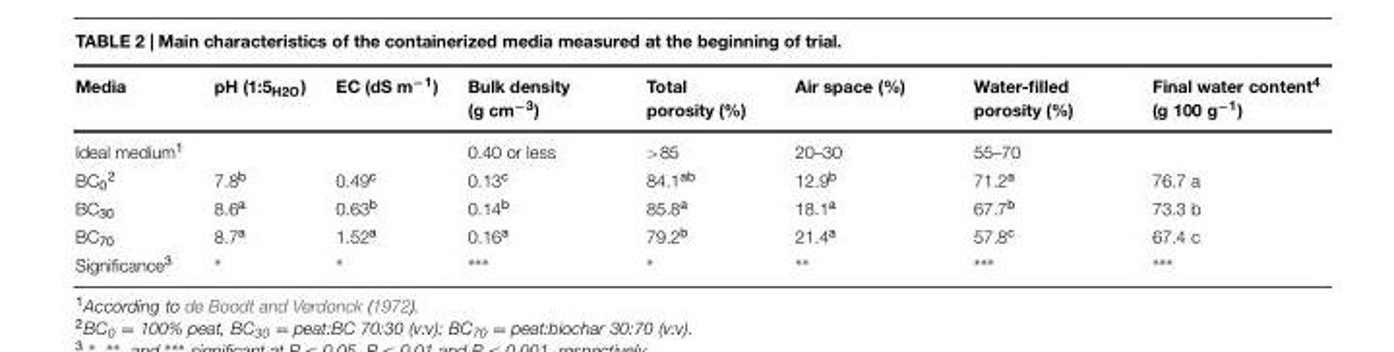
<table><thead><tr><td>Media</td><td>pH (1:5<sub>H2O</sub>)</td><td>EC (dS m<sup>−1</sup>)</td><td>Bulk density (g cm<sup>−3</sup>)</td><td>Total porosity (%)</td><td>Air space (%)</td><td>Water-filled porosity (%)</td><td>Final water content<sup>4</sup> (g 100 g<sup>−1</sup>)</td></tr></thead><tbody><tr><td>Ideal medium<sup>1</sup></td><td></td><td></td><td>0.40 or less</td><td>&gt;85</td><td>20–30</td><td>55–70</td><td></td></tr><tr><td>BC<sub>0</sub><sup>2</sup></td><td>7.8<sup>b</sup></td><td>0.49<sup>c</sup></td><td>0.13<sup>c</sup></td><td>84.1<sup>ab</sup></td><td>12.9<sup>b</sup></td><td>71.2<sup>a</sup></td><td>76.7 a</td></tr><tr><td>BC<sub>30</sub></td><td>8.6<sup>a</sup></td><td>0.63<sup>b</sup></td><td>0.14<sup>b</sup></td><td>85.8<sup>a</sup></td><td>18.1<sup>a</sup></td><td>67.7<sup>b</sup></td><td>73.3 b</td></tr><tr><td>BC<sub>70</sub></td><td>8.7<sup>a</sup></td><td>1.52<sup>a</sup></td><td>0.16<sup>a</sup></td><td>79.2<sup>b</sup></td><td>21.4<sup>a</sup></td><td>57.8<sup>c</sup></td><td>67.4 c</td></tr><tr><td>Significance<sup>3</sup></td><td>∗</td><td>∗</td><td>∗∗∗</td><td>∗</td><td>∗∗</td><td>∗∗∗</td><td>∗∗∗</td></tr></tbody></table>